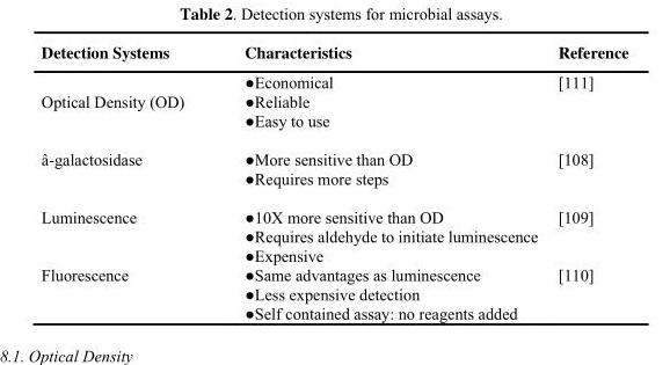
<table><thead><tr><td>Detection Systems</td><td>Characteristics</td><td>Reference</td></tr></thead><tbody><tr><td>Optical Density (OD)</td><td>●Economical ●Reliable ●Easy to use</td><td>[111]</td></tr><tr><td>â-galactosidase</td><td>●More sensitive than OD ●Requires more steps</td><td>[108]</td></tr><tr><td>Luminescence</td><td>●10X more sensitive than OD ●Requires aldehyde to initiate luminescence ●Expensive</td><td>[109]</td></tr><tr><td>Fluorescence</td><td>●Same advantages as luminescence ●Less expensive detection ●Self contained assay: no reagents added</td><td>[110]</td></tr></tbody></table>